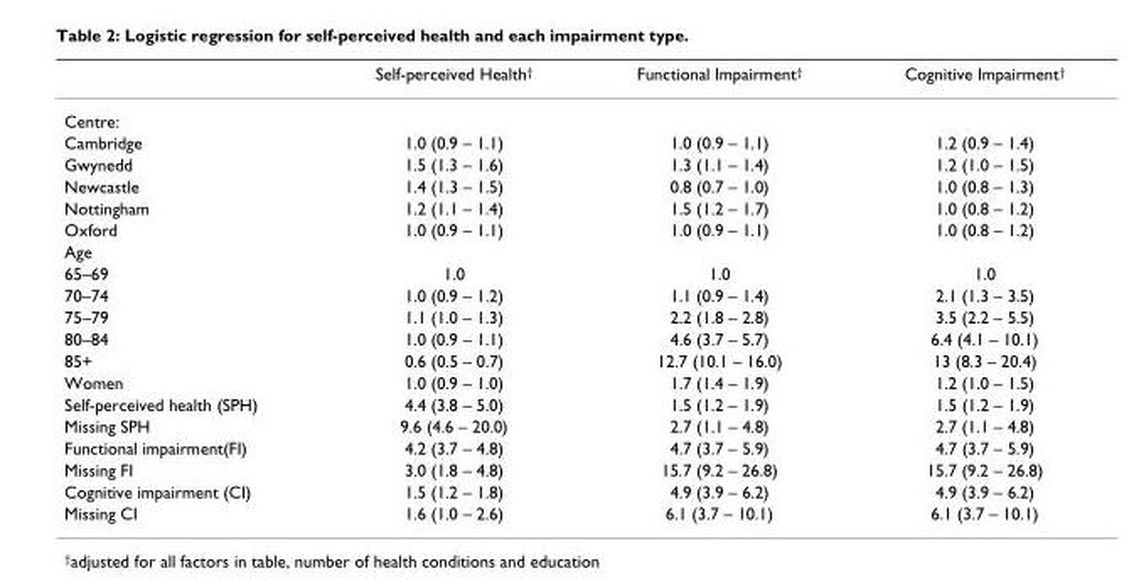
<table><thead><tr><td></td><td>Self-perceived Health†</td><td>Functional Impairment†</td><td>Cognitive Impairment†</td></tr></thead><tbody><tr><td colspan="4">Centre:</td></tr><tr><td>Cambridge</td><td>1.0 (0.9 – 1.1)</td><td>1.0 (0.9 – 1.1)</td><td>1.2 (0.9 – 1.4)</td></tr><tr><td>Gwynedd</td><td>1.5 (1.3 – 1.6)</td><td>1.3 (1.1 – 1.4)</td><td>1.2 (1.0 – 1.5)</td></tr><tr><td>Newcastle</td><td>1.4 (1.3 – 1.5)</td><td>0.8 (0.7 – 1.0)</td><td>1.0 (0.8 – 1.3)</td></tr><tr><td>Nottingham</td><td>1.2 (1.1 – 1.4)</td><td>1.5 (1.2 – 1.7)</td><td>1.0 (0.8 – 1.2)</td></tr><tr><td>Oxford</td><td>1.0 (0.9 – 1.1)</td><td>1.0 (0.9 – 1.1)</td><td>1.0 (0.8 – 1.2)</td></tr><tr><td colspan="4">Age</td></tr><tr><td>65–69</td><td>1.0</td><td>1.0</td><td>1.0</td></tr><tr><td>70–74</td><td>1.0 (0.9 – 1.2)</td><td>1.1 (0.9 – 1.4)</td><td>2.1 (1.3 – 3.5)</td></tr><tr><td>75–79</td><td>1.1 (1.0 – 1.3)</td><td>2.2 (1.8 – 2.8)</td><td>3.5 (2.2 – 5.5)</td></tr><tr><td>80–84</td><td>1.0 (0.9 – 1.1)</td><td>4.6 (3.7 – 5.7)</td><td>6.4 (4.1 – 10.1)</td></tr><tr><td>85+</td><td>0.6 (0.5 – 0.7)</td><td>12.7 (10.1 – 16.0)</td><td>13 (8.3 – 20.4)</td></tr><tr><td>Women</td><td>1.0 (0.9 – 1.0)</td><td>1.7 (1.4 – 1.9)</td><td>1.2 (1.0 – 1.5)</td></tr><tr><td>Self-perceived health (SPH)</td><td>4.4 (3.8 – 5.0)</td><td>1.5 (1.2 – 1.9)</td><td>1.5 (1.2 – 1.9)</td></tr><tr><td>Missing SPH</td><td>9.6 (4.6 – 20.0)</td><td>2.7 (1.1 – 4.8)</td><td>2.7 (1.1 – 4.8)</td></tr><tr><td>Functional impairment(FI)</td><td>4.2 (3.7 – 4.8)</td><td>4.7 (3.7 – 5.9)</td><td>4.7 (3.7 – 5.9)</td></tr><tr><td>Missing FI</td><td>3.0 (1.8 – 4.8)</td><td>15.7 (9.2 – 26.8)</td><td>15.7 (9.2 – 26.8)</td></tr><tr><td>Cognitive impairment (CI)</td><td>1.5 (1.2 – 1.8)</td><td>4.9 (3.9 – 6.2)</td><td>4.9 (3.9 – 6.2)</td></tr><tr><td>Missing CI</td><td>1.6 (1.0 – 2.6)</td><td>6.1 (3.7 – 10.1)</td><td>6.1 (3.7 – 10.1)</td></tr></tbody></table>